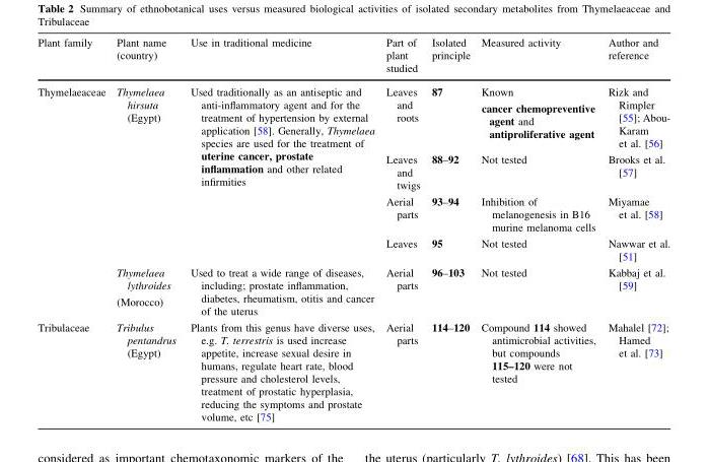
<table><thead><tr><td>Plant family</td><td>Plant name (country)</td><td>Use in traditional medicine</td><td>Part of plant studied</td><td>Isolated principle</td><td>Measured activity</td><td>Author and reference</td></tr></thead><tbody><tr><td rowspan="5">Thymelaeaceae</td><td rowspan="4">Thymelaea hirsuta (Egypt)</td><td rowspan="4">Used traditionally as an antiseptic and anti-inflammatory agent and for the treatment of hypertension by external application [58]. Generally, Thymelaea species are used for the treatment of uterine cancer, prostate inflammation and other related infirmities</td><td>Leaves and roots</td><td>87</td><td>Known cancer chemopreventive agent and antiproliferative agent</td><td>Rizk and Rimpler [55]; Abou- Karam et al. [56]</td></tr><tr><td>Leaves and twigs</td><td>88–92</td><td>Not tested</td><td>Brooks et al. [57]</td></tr><tr><td>Aerial parts</td><td>93–94</td><td>Inhibition of melanogenesis in B16 murine melanoma cells</td><td>Miyamae et al. [58]</td></tr><tr><td>Leaves</td><td>95</td><td>Not tested</td><td>Nawwar et al. [51]</td></tr><tr><td>Thymelaea lythroides (Morocco)</td><td>Used to treat a wide range of diseases, including; prostate inflammation, diabetes, rheumatism, otitis and cancer of the uterus</td><td>Aerial parts</td><td>96–103</td><td>Not tested</td><td>Kabbaj et al. [59]</td></tr><tr><td>Tribulaceae</td><td>Tribulus pentandrus (Egypt)</td><td>Plants from this genus have diverse uses, e.g. T. terrestris is used increase appetite, increase sexual desire in humans, regulate heart rate, blood pressure and cholesterol levels, treatment of prostatic hyperplasia, reducing the symptoms and prostate volume, etc [75]</td><td>Aerial parts</td><td>114–120</td><td>Compound 114 showed antimicrobial activities, but compounds 115–120 were not tested</td><td>Mahalel [72]; Hamed et al. [73]</td></tr></tbody></table>